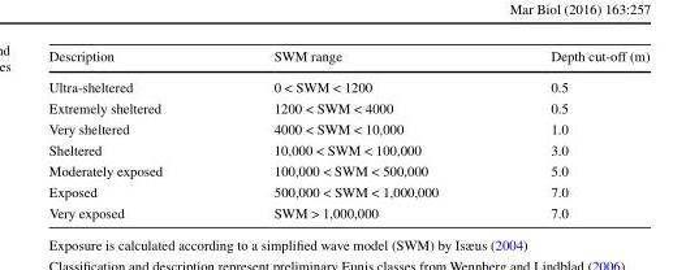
<table><thead><tr><td>Description</td><td>SWM range</td><td>Depth cut-off (m)</td></tr></thead><tbody><tr><td>Ultra-sheltered</td><td>0 &lt; SWM &lt; 1200</td><td>0.5</td></tr><tr><td>Extremely sheltered</td><td>1200 &lt; SWM &lt; 4000</td><td>0.5</td></tr><tr><td>Very sheltered</td><td>4000 &lt; SWM &lt; 10,000</td><td>1.0</td></tr><tr><td>Sheltered</td><td>10,000 &lt; SWM &lt; 100,000</td><td>3.0</td></tr><tr><td>Moderately exposed</td><td>100,000 &lt; SWM &lt; 500,000</td><td>5.0</td></tr><tr><td>Exposed</td><td>500,000 &lt; SWM &lt; 1,000,000</td><td>7.0</td></tr><tr><td>Very exposed</td><td>SWM &gt; 1,000,000</td><td>7.0</td></tr></tbody></table>